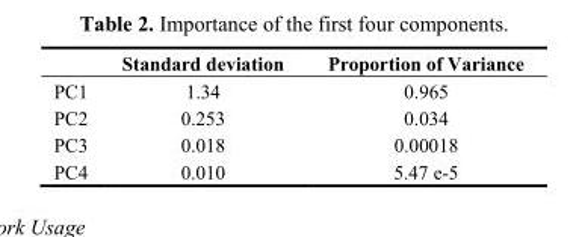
<table><thead><tr><td></td><td>Standard deviation</td><td>Proportion of Variance</td></tr></thead><tbody><tr><td>PC1</td><td>1.34</td><td>0.965</td></tr><tr><td>PC2</td><td>0.253</td><td>0.034</td></tr><tr><td>PC3</td><td>0.018</td><td>0.00018</td></tr><tr><td>PC4</td><td>0.010</td><td>5.47 e-5</td></tr></tbody></table>